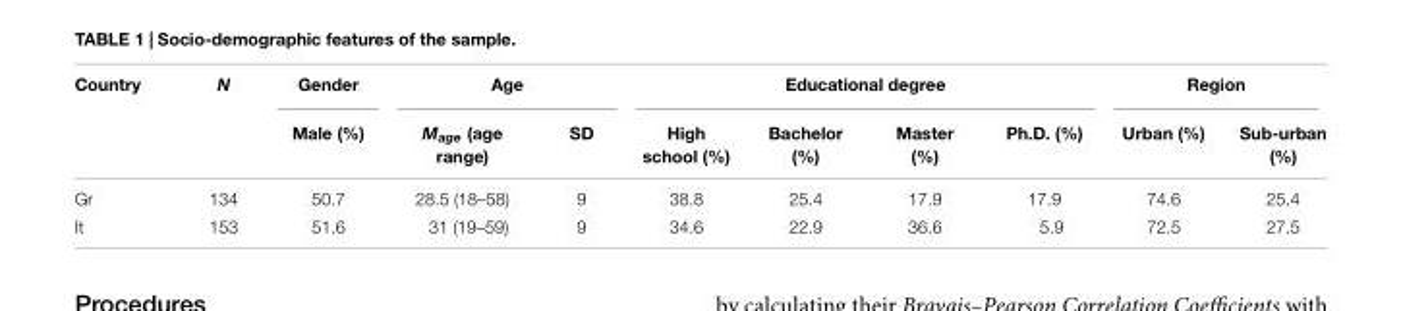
<table><thead><tr><td rowspan="2">Country</td><td rowspan="2">N</td><td rowspan="2">Gender Male (%)</td><td colspan="2">Age</td><td colspan="4">Educational degree</td><td colspan="2">Region</td></tr><tr><td>M<sub>age</sub> (age range)</td><td>SD</td><td>High school (%)</td><td>Bachelor (%)</td><td>Master (%)</td><td>Ph.D. (%)</td><td>Urban (%)</td><td>Sub-urban (%)</td></tr></thead><tbody><tr><td>Gr</td><td>134</td><td>50.7</td><td>28.5 (18–58)</td><td>9</td><td>38.8</td><td>25.4</td><td>17.9</td><td>17.9</td><td>74.6</td><td>25.4</td></tr><tr><td>It</td><td>153</td><td>51.6</td><td>31 (19–59)</td><td>9</td><td>34.6</td><td>22.9</td><td>36.6</td><td>5.9</td><td>72.5</td><td>27.5</td></tr></tbody></table>